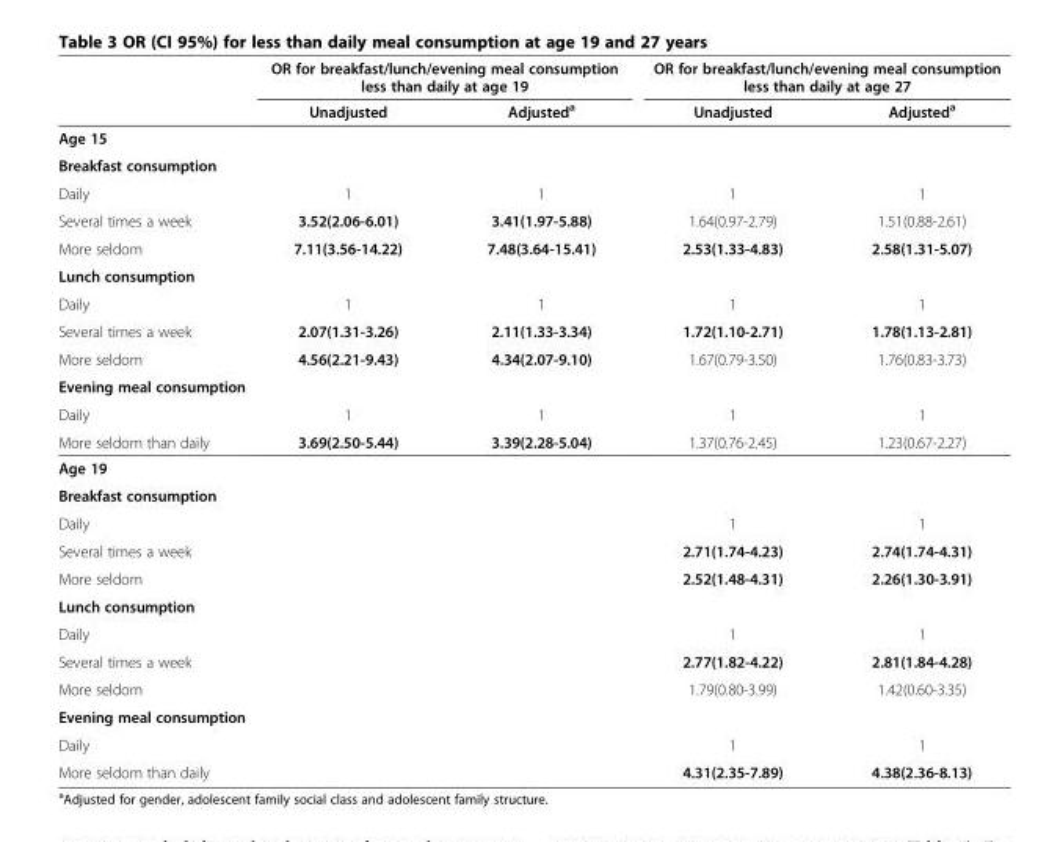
<table><thead><tr><td rowspan="2"></td><td colspan="2">OR for breakfast/lunch/evening meal consumption less than daily at age 19</td><td colspan="2">OR for breakfast/lunch/evening meal consumption less than daily at age 27</td></tr><tr><td>Unadjusted</td><td>Adjusted<sup>a</sup></td><td>Unadjusted</td><td>Adjusted<sup>a</sup></td></tr></thead><tbody><tr><td colspan="5">Age 15</td></tr><tr><td colspan="5">Breakfast consumption</td></tr><tr><td>Daily</td><td>1</td><td>1</td><td>1</td><td>1</td></tr><tr><td>Several times a week</td><td>3.52(2.06-6.01)</td><td>3.41(1.97-5.88)</td><td>1.64(0.97-2.79)</td><td>1.51(0.88-2.61)</td></tr><tr><td>More seldom</td><td>7.11(3.56-14.22)</td><td>7.48(3.64-15.41)</td><td>2.53(1.33-4.83)</td><td>2.58(1.31-5.07)</td></tr><tr><td colspan="5">Lunch consumption</td></tr><tr><td>Daily</td><td>1</td><td>1</td><td>1</td><td>1</td></tr><tr><td>Several times a week</td><td>2.07(1.31-3.26)</td><td>2.11(1.33-3.34)</td><td>1.72(1.10-2.71)</td><td>1.78(1.13-2.81)</td></tr><tr><td>More seldom</td><td>4.56(2.21-9.43)</td><td>4.34(2.07-9.10)</td><td>1.67(0.79-3.50)</td><td>1.76(0.83-3.73)</td></tr><tr><td colspan="5">Evening meal consumption</td></tr><tr><td>Daily</td><td>1</td><td>1</td><td>1</td><td>1</td></tr><tr><td>More seldom than daily</td><td>3.69(2.50-5.44)</td><td>3.39(2.28-5.04)</td><td>1.37(0.76-2.45)</td><td>1.23(0.67-2.27)</td></tr><tr><td colspan="5">Age 19</td></tr><tr><td colspan="5">Breakfast consumption</td></tr><tr><td>Daily</td><td></td><td></td><td>1</td><td>1</td></tr><tr><td>Several times a week</td><td></td><td></td><td>2.71(1.74-4.23)</td><td>2.74(1.74-4.31)</td></tr><tr><td>More seldom</td><td></td><td></td><td>2.52(1.48-4.31)</td><td>2.26(1.30-3.91)</td></tr><tr><td colspan="5">Lunch consumption</td></tr><tr><td>Daily</td><td></td><td></td><td>1</td><td>1</td></tr><tr><td>Several times a week</td><td></td><td></td><td>2.77(1.82-4.22)</td><td>2.81(1.84-4.28)</td></tr><tr><td>More seldom</td><td></td><td></td><td>1.79(0.80-3.99)</td><td>1.42(0.60-3.35)</td></tr><tr><td colspan="5">Evening meal consumption</td></tr><tr><td>Daily</td><td></td><td></td><td>1</td><td>1</td></tr><tr><td>More seldom than daily</td><td></td><td></td><td>4.31(2.35-7.89)</td><td>4.38(2.36-8.13)</td></tr></tbody></table>